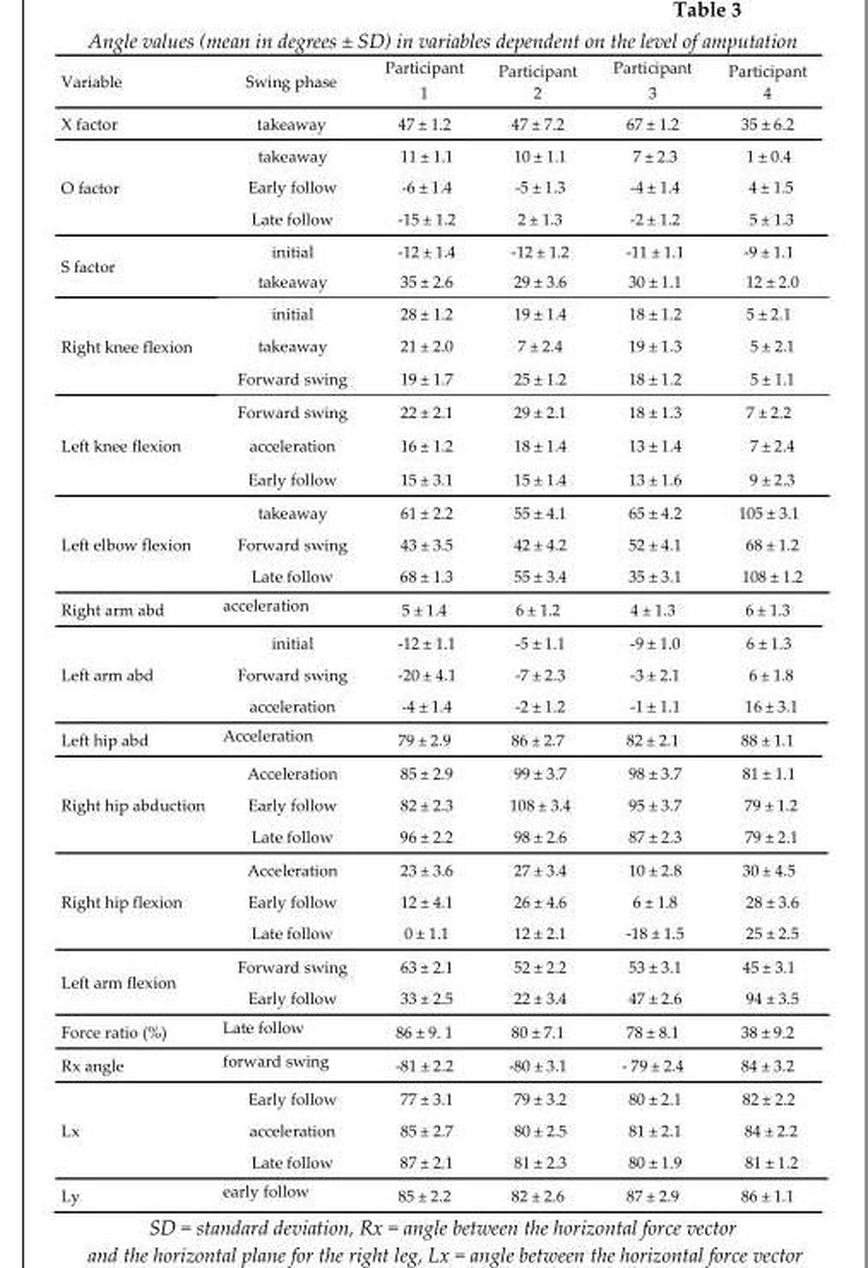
<table><thead><tr><td>Variable</td><td>Swing phase</td><td>Participant 1</td><td>Participant 2</td><td>Participant 3</td><td>Participant 4</td></tr></thead><tbody><tr><td>X factor</td><td>takeaway</td><td>47 ± 1.2</td><td>47 ± 7.2</td><td>67 ± 1.2</td><td>35 ± 6.2</td></tr><tr><td rowspan="3">O factor</td><td>takeaway</td><td>11 ± 1.1</td><td>10 ± 1.1</td><td>7 ± 2.3</td><td>1 ± 0.4</td></tr><tr><td>Early follow</td><td>-6 ± 1.4</td><td>-5 ± 1.3</td><td>-4 ± 1.4</td><td>4 ± 1.5</td></tr><tr><td>Late follow</td><td>-15 ± 1.2</td><td>2 ± 1.3</td><td>-2 ± 1.2</td><td>5 ± 1.3</td></tr><tr><td rowspan="2">S factor</td><td>initial</td><td>-12 ± 1.4</td><td>-12 ± 1.2</td><td>-11 ± 1.1</td><td>-9 ± 1.1</td></tr><tr><td>takeaway</td><td>35 ± 2.6</td><td>29 ± 3.6</td><td>30 ± 1.1</td><td>12 ± 2.0</td></tr><tr><td rowspan="3">Right knee flexion</td><td>initial</td><td>28 ± 1.2</td><td>19 ± 1.4</td><td>18 ± 1.2</td><td>5 ± 2.1</td></tr><tr><td>takeaway</td><td>21 ± 2.0</td><td>7 ± 2.4</td><td>19 ± 1.3</td><td>5 ± 2.1</td></tr><tr><td>Forward swing</td><td>19 ± 1.7</td><td>25 ± 1.2</td><td>18 ± 1.2</td><td>5 ± 1.1</td></tr><tr><td rowspan="3">Left knee flexion</td><td>Forward swing</td><td>22 ± 2.1</td><td>29 ± 2.1</td><td>18 ± 1.3</td><td>7 ± 2.2</td></tr><tr><td>acceleration</td><td>16 ± 1.2</td><td>18 ± 1.4</td><td>13 ± 1.4</td><td>7 ± 2.4</td></tr><tr><td>Early follow</td><td>15 ± 3.1</td><td>15 ± 1.4</td><td>13 ± 1.6</td><td>9 ± 2.3</td></tr><tr><td rowspan="3">Left elbow flexion</td><td>takeaway</td><td>61 ± 2.2</td><td>55 ± 4.1</td><td>65 ± 4.2</td><td>105 ± 3.1</td></tr><tr><td>Forward swing</td><td>43 ± 3.5</td><td>42 ± 4.2</td><td>52 ± 4.1</td><td>68 ± 1.2</td></tr><tr><td>Late follow</td><td>68 ± 1.3</td><td>55 ± 3.4</td><td>35 ± 3.1</td><td>108 ± 1.2</td></tr><tr><td>Right arm abd</td><td>acceleration</td><td>5 ± 1.4</td><td>6 ± 1.2</td><td>4 ± 1.3</td><td>6 ± 1.3</td></tr><tr><td rowspan="3">Left arm abd</td><td>initial</td><td>-12 ± 1.1</td><td>-5 ± 1.1</td><td>-9 ± 1.0</td><td>6 ± 1.3</td></tr><tr><td>Forward swing</td><td>-20 ± 4.1</td><td>-7 ± 2.3</td><td>-3 ± 2.1</td><td>6 ± 1.8</td></tr><tr><td>acceleration</td><td>-4 ± 1.4</td><td>-2 ± 1.2</td><td>-1 ± 1.1</td><td>16 ± 3.1</td></tr><tr><td>Left hip abd</td><td>Acceleration</td><td>79 ± 2.9</td><td>86 ± 2.7</td><td>82 ± 2.1</td><td>88 ± 1.1</td></tr><tr><td rowspan="3">Right hip abduction</td><td>Acceleration</td><td>85 ± 2.9</td><td>99 ± 3.7</td><td>98 ± 3.7</td><td>81 ± 1.1</td></tr><tr><td>Early follow</td><td>82 ± 2.3</td><td>108 ± 3.4</td><td>95 ± 3.7</td><td>79 ± 1.2</td></tr><tr><td>Late follow</td><td>96 ± 2.2</td><td>98 ± 2.6</td><td>87 ± 2.3</td><td>79 ± 2.1</td></tr><tr><td rowspan="3">Right hip flexion</td><td>Acceleration</td><td>23 ± 3.6</td><td>27 ± 3.4</td><td>10 ± 2.8</td><td>30 ± 4.5</td></tr><tr><td>Early follow</td><td>12 ± 4.1</td><td>26 ± 4.6</td><td>6 ± 1.8</td><td>28 ± 3.6</td></tr><tr><td>Late follow</td><td>0 ± 1.1</td><td>12 ± 2.1</td><td>-18 ± 1.5</td><td>25 ± 2.5</td></tr><tr><td rowspan="2">Left arm flexion</td><td>Forward swing</td><td>63 ± 2.1</td><td>52 ± 2.2</td><td>53 ± 3.1</td><td>45 ± 3.1</td></tr><tr><td>Early follow</td><td>33 ± 2.5</td><td>22 ± 3.4</td><td>47 ± 2.6</td><td>94 ± 3.5</td></tr><tr><td>Force ratio (%)</td><td>Late follow</td><td>86 ± 9. 1</td><td>80 ± 7.1</td><td>78 ± 8.1</td><td>38 ± 9.2</td></tr><tr><td>Rx angle</td><td>forward swing</td><td>-81 ± 2.2</td><td>-80 ± 3.1</td><td>- 79 ± 2.4</td><td>84 ± 3.2</td></tr><tr><td rowspan="3">Lx</td><td>Early follow</td><td>77 ± 3.1</td><td>79 ± 3.2</td><td>80 ± 2.1</td><td>82 ± 2.2</td></tr><tr><td>acceleration</td><td>85 ± 2.7</td><td>80 ± 2.5</td><td>81 ± 2.1</td><td>84 ± 2.2</td></tr><tr><td>Late follow</td><td>87 ± 2.1</td><td>81 ± 2.3</td><td>80 ± 1.9</td><td>81 ± 1.2</td></tr><tr><td>Ly</td><td>early follow</td><td>85 ± 2.2</td><td>82 ± 2.6</td><td>87 ± 2.9</td><td>86 ± 1.1</td></tr></tbody></table>